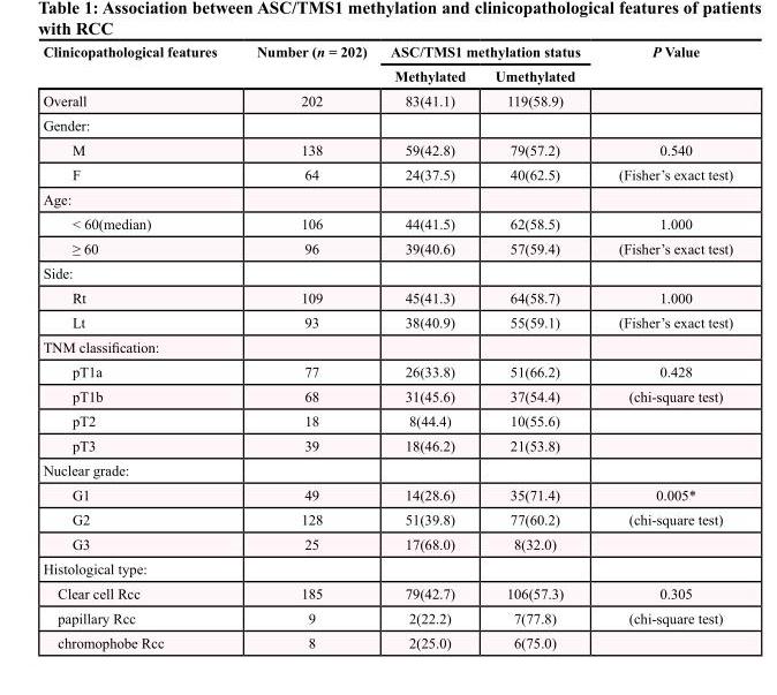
<table><thead><tr><td rowspan="2">Clinicopathological features</td><td rowspan="2">Number (n = 202)</td><td colspan="2">ASC/TMS1 methylation status</td><td rowspan="2">P Value</td></tr><tr><td>Methylated</td><td>Umethylated</td></tr></thead><tbody><tr><td>Overall</td><td>202</td><td>83(41.1)</td><td>119(58.9)</td><td></td></tr><tr><td colspan="5">Gender:</td></tr><tr><td>M</td><td>138</td><td>59(42.8)</td><td>79(57.2)</td><td>0.540</td></tr><tr><td>F</td><td>64</td><td>24(37.5)</td><td>40(62.5)</td><td>(Fisher’s exact test)</td></tr><tr><td colspan="5">Age:</td></tr><tr><td>&lt; 60(median)</td><td>106</td><td>44(41.5)</td><td>62(58.5)</td><td>1.000</td></tr><tr><td>≥ 60</td><td>96</td><td>39(40.6)</td><td>57(59.4)</td><td>(Fisher’s exact test)</td></tr><tr><td colspan="5">Side:</td></tr><tr><td>Rt</td><td>109</td><td>45(41.3)</td><td>64(58.7)</td><td>1.000</td></tr><tr><td>Lt</td><td>93</td><td>38(40.9)</td><td>55(59.1)</td><td>(Fisher’s exact test)</td></tr><tr><td colspan="5">TNM classification:</td></tr><tr><td>pT1a</td><td>77</td><td>26(33.8)</td><td>51(66.2)</td><td>0.428</td></tr><tr><td>pT1b</td><td>68</td><td>31(45.6)</td><td>37(54.4)</td><td>(chi-square test)</td></tr><tr><td>pT2</td><td>18</td><td>8(44.4)</td><td>10(55.6)</td><td></td></tr><tr><td>pT3</td><td>39</td><td>18(46.2)</td><td>21(53.8)</td><td></td></tr><tr><td colspan="5">Nuclear grade:</td></tr><tr><td>G1</td><td>49</td><td>14(28.6)</td><td>35(71.4)</td><td>0.005*</td></tr><tr><td>G2</td><td>128</td><td>51(39.8)</td><td>77(60.2)</td><td>(chi-square test)</td></tr><tr><td>G3</td><td>25</td><td>17(68.0)</td><td>8(32.0)</td><td></td></tr><tr><td colspan="5">Histological type:</td></tr><tr><td>Clear cell Rcc</td><td>185</td><td>79(42.7)</td><td>106(57.3)</td><td>0.305</td></tr><tr><td>papillary Rcc</td><td>9</td><td>2(22.2)</td><td>7(77.8)</td><td>(chi-square test)</td></tr><tr><td>chromophobe Rcc</td><td>8</td><td>2(25.0)</td><td>6(75.0)</td><td></td></tr></tbody></table>